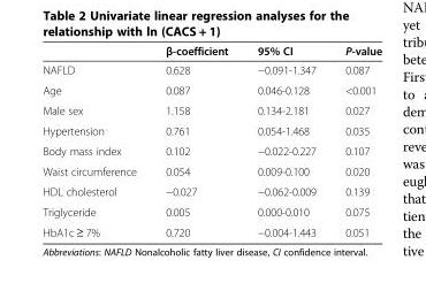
<table><thead><tr><td></td><td>β-coefficient</td><td>95% CI</td><td>P-value</td></tr></thead><tbody><tr><td>NAFLD</td><td>0.628</td><td>−0.091-1.347</td><td>0.087</td></tr><tr><td>Age</td><td>0.087</td><td>0.046-0.128</td><td>&lt;0.001</td></tr><tr><td>Male sex</td><td>1.158</td><td>0.134-2.181</td><td>0.027</td></tr><tr><td>Hypertension</td><td>0.761</td><td>0.054-1.468</td><td>0.035</td></tr><tr><td>Body mass index</td><td>0.102</td><td>−0.022-0.227</td><td>0.107</td></tr><tr><td>Waist circumference</td><td>0.054</td><td>0.009-0.100</td><td>0.020</td></tr><tr><td>HDL cholesterol</td><td>−0.027</td><td>−0.062-0.009</td><td>0.139</td></tr><tr><td>Triglyceride</td><td>0.005</td><td>0.000-0.010</td><td>0.075</td></tr><tr><td>HbA1c ≥ 7%</td><td>0.720</td><td>−0.004-1.443</td><td>0.051</td></tr></tbody></table>